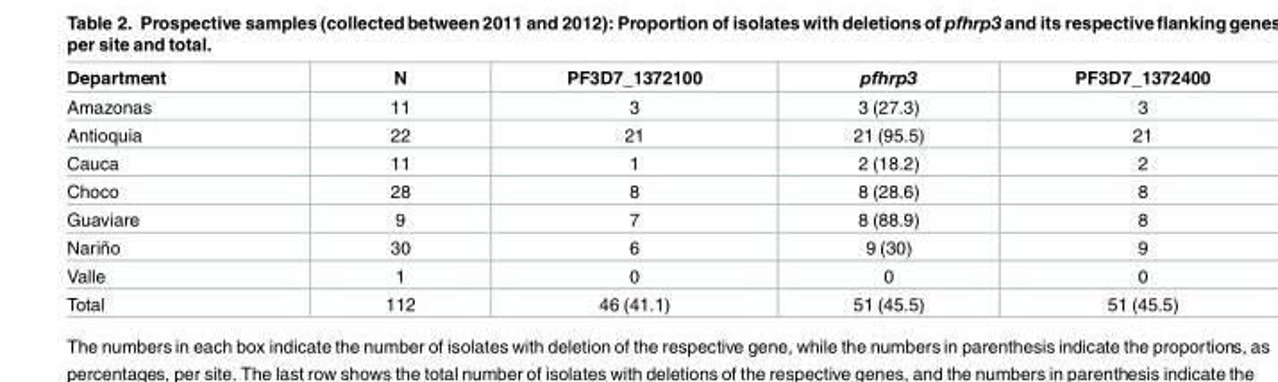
<table><thead><tr><td>Department</td><td>N</td><td>PF3D7_1372100</td><td>pfhrp3</td><td>PF3D7_1372400</td></tr></thead><tbody><tr><td>Amazonas</td><td>11</td><td>3</td><td>3 (27.3)</td><td>3</td></tr><tr><td>Antioquia</td><td>22</td><td>21</td><td>21 (95.5)</td><td>21</td></tr><tr><td>Cauca</td><td>11</td><td>1</td><td>2 (18.2)</td><td>2</td></tr><tr><td>Choco</td><td>28</td><td>8</td><td>8 (28.6)</td><td>8</td></tr><tr><td>Guaviare</td><td>9</td><td>7</td><td>8 (88.9)</td><td>8</td></tr><tr><td>Nariño</td><td>30</td><td>6</td><td>9 (30)</td><td>9</td></tr><tr><td>Valle</td><td>1</td><td>0</td><td>0</td><td>0</td></tr><tr><td>Total</td><td>112</td><td>46 (41.1)</td><td>51 (45.5)</td><td>51 (45.5)</td></tr></tbody></table>